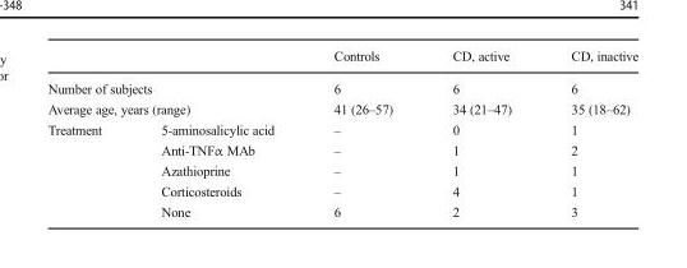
<table><thead><tr><td></td><td></td><td>Controls</td><td>CD, active</td><td>CD, inactive</td></tr></thead><tbody><tr><td colspan="2">Number of subjects</td><td>6</td><td>6</td><td>6</td></tr><tr><td colspan="2">Average age, years (range)</td><td>41 (26–57)</td><td>34 (21–47)</td><td>35 (18–62)</td></tr><tr><td rowspan="5">Treatment</td><td>5-aminosalicylic acid</td><td>–</td><td>0</td><td>1</td></tr><tr><td>Anti-TNFα MAb</td><td>–</td><td>1</td><td>2</td></tr><tr><td>Azathioprine</td><td>–</td><td>1</td><td>1</td></tr><tr><td>Corticosteroids</td><td>–</td><td>4</td><td>1</td></tr><tr><td>None</td><td>6</td><td>2</td><td>3</td></tr></tbody></table>